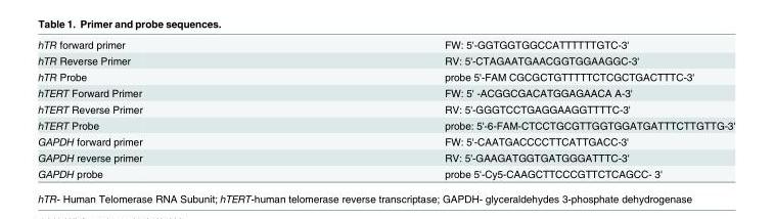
<table><tbody><tr><td>hTR forward primer</td><td>FW: 5&#x27;-GGTGGTGGCCATTTTTTGTC-3&#x27;</td></tr><tr><td>hTR Reverse Primer</td><td>RV: 5&#x27;-CTAGAATGAACGGTGGAAGGC-3&#x27;</td></tr><tr><td>hTR Probe</td><td>probe 5&#x27;-FAM CGCGCTGTTTTTCTCGCTGACTTTC-3&#x27;</td></tr><tr><td>hTERT Forward Primer</td><td>FW: 5&#x27; -ACGGCGACATGGAGAACA A-3&#x27;</td></tr><tr><td>hTERT Reverse Primer</td><td>RV: 5&#x27;-GGGTCCTGAGGAAGGTTTTC-3&#x27;</td></tr><tr><td>hTERT Probe</td><td>probe: 5&#x27;-6-FAM-CTCCTGCGTTGGTGGATGATTTCTTGTTG-3&#x27;</td></tr><tr><td>GAPDH forward primer</td><td>FW: 5&#x27;-CAATGACCCCTTCATTGACC-3&#x27;</td></tr><tr><td>GAPDH reverse primer</td><td>RV: 5&#x27;-GAAGATGGTGATGGGATTTC-3&#x27;</td></tr><tr><td>GAPDH probe</td><td>probe 5&#x27;-Cy5-CAAGCTTCCCGTTCTCAGCC- 3&#x27;</td></tr></tbody></table>